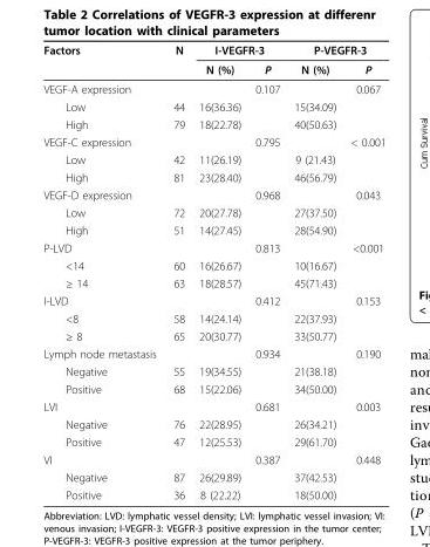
<table><thead><tr><td rowspan="2">Factors</td><td rowspan="2">N</td><td colspan="2">I-VEGFR-3</td><td colspan="2">P-VEGFR-3</td></tr><tr><td>N (%)</td><td>P</td><td>N (%)</td><td>P</td></tr></thead><tbody><tr><td>VEGF-A expression</td><td></td><td></td><td>0.107</td><td></td><td>0.067</td></tr><tr><td>Low</td><td>44</td><td>16(36.36)</td><td></td><td>15(34.09)</td><td></td></tr><tr><td>High</td><td>79</td><td>18(22.78)</td><td></td><td>40(50.63)</td><td></td></tr><tr><td>VEGF-C expression</td><td></td><td></td><td>0.795</td><td></td><td>&lt; 0.001</td></tr><tr><td>Low</td><td>42</td><td>11(26.19)</td><td></td><td>9 (21.43)</td><td></td></tr><tr><td>High</td><td>81</td><td>23(28.40)</td><td></td><td>46(56.79)</td><td></td></tr><tr><td>VEGF-D expression</td><td></td><td></td><td>0.968</td><td></td><td>0.043</td></tr><tr><td>Low</td><td>72</td><td>20(27.78)</td><td></td><td>27(37.50)</td><td></td></tr><tr><td>High</td><td>51</td><td>14(27.45)</td><td></td><td>28(54.90)</td><td></td></tr><tr><td>P-LVD</td><td></td><td></td><td>0.813</td><td></td><td>&lt;0.001</td></tr><tr><td>&lt;14</td><td>60</td><td>16(26.67)</td><td></td><td>10(16.67)</td><td></td></tr><tr><td>≥ 14</td><td>63</td><td>18(28.57)</td><td></td><td>45(71.43)</td><td></td></tr><tr><td>I-LVD</td><td></td><td></td><td>0.412</td><td></td><td>0.153</td></tr><tr><td>&lt;8</td><td>58</td><td>14(24.14)</td><td></td><td>22(37.93)</td><td></td></tr><tr><td>≥ 8</td><td>65</td><td>20(30.77)</td><td></td><td>33(50.77)</td><td></td></tr><tr><td>Lymph node metastasis</td><td></td><td></td><td>0.934</td><td></td><td>0.190</td></tr><tr><td>Negative</td><td>55</td><td>19(34.55)</td><td></td><td>21(38.18)</td><td></td></tr><tr><td>Positive</td><td>68</td><td>15(22.06)</td><td></td><td>34(50.00)</td><td></td></tr><tr><td>LVI</td><td></td><td></td><td>0.681</td><td></td><td>0.003</td></tr><tr><td>Negative</td><td>76</td><td>22(28.95)</td><td></td><td>26(34.21)</td><td></td></tr><tr><td>Positive</td><td>47</td><td>12(25.53)</td><td></td><td>29(61.70)</td><td></td></tr><tr><td>VI</td><td></td><td></td><td>0.387</td><td></td><td>0.448</td></tr><tr><td>Negative</td><td>87</td><td>26(29.89)</td><td></td><td>37(42.53)</td><td></td></tr><tr><td>Positive</td><td>36</td><td>8 (22.22)</td><td></td><td>18(50.00)</td><td></td></tr></tbody></table>